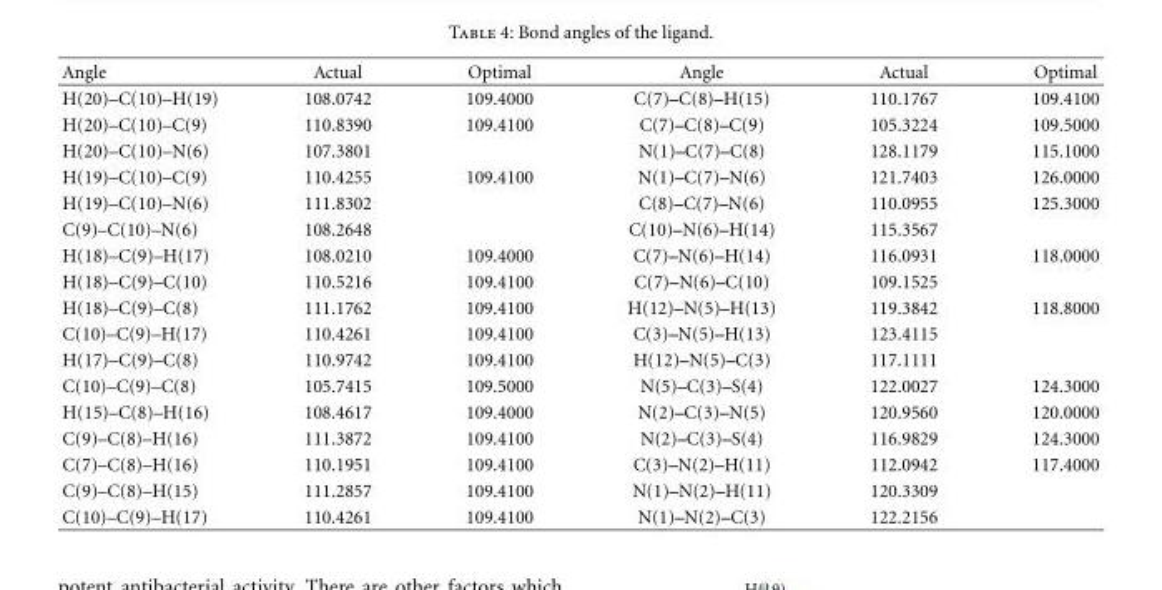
<table><thead><tr><td>Angle</td><td>Actual</td><td>Optimal</td><td>Angle</td><td>Actual</td><td>Optimal</td></tr></thead><tbody><tr><td>H(20)–C(10)–H(19)</td><td>108.0742</td><td>109.4000</td><td>C(7)–C(8)–H(15)</td><td>110.1767</td><td>109.4100</td></tr><tr><td>H(20)–C(10)–C(9)</td><td>110.8390</td><td>109.4100</td><td>C(7)–C(8)–C(9)</td><td>105.3224</td><td>109.5000</td></tr><tr><td>H(20)–C(10)–N(6)</td><td>107.3801</td><td></td><td>N(1)–C(7)–C(8)</td><td>128.1179</td><td>115.1000</td></tr><tr><td>H(19)–C(10)–C(9)</td><td>110.4255</td><td>109.4100</td><td>N(1)–C(7)–N(6)</td><td>121.7403</td><td>126.0000</td></tr><tr><td>H(19)–C(10)–N(6)</td><td>111.8302</td><td></td><td>C(8)–C(7)–N(6)</td><td>110.0955</td><td>125.3000</td></tr><tr><td>C(9)–C(10)–N(6)</td><td>108.2648</td><td></td><td>C(10)–N(6)–H(14)</td><td>115.3567</td><td></td></tr><tr><td>H(18)–C(9)–H(17)</td><td>108.0210</td><td>109.4000</td><td>C(7)–N(6)–H(14)</td><td>116.0931</td><td>118.0000</td></tr><tr><td>H(18)–C(9)–C(10)</td><td>110.5216</td><td>109.4100</td><td>C(7)–N(6)–C(10)</td><td>109.1525</td><td></td></tr><tr><td>H(18)–C(9)–C(8)</td><td>111.1762</td><td>109.4100</td><td>H(12)–N(5)–H(13)</td><td>119.3842</td><td>118.8000</td></tr><tr><td>C(10)–C(9)–H(17)</td><td>110.4261</td><td>109.4100</td><td>C(3)–N(5)–H(13)</td><td>123.4115</td><td></td></tr><tr><td>H(17)–C(9)–C(8)</td><td>110.9742</td><td>109.4100</td><td>H(12)–N(5)–C(3)</td><td>117.1111</td><td></td></tr><tr><td>C(10)–C(9)–C(8)</td><td>105.7415</td><td>109.5000</td><td>N(5)–C(3)–S(4)</td><td>122.0027</td><td>124.3000</td></tr><tr><td>H(15)–C(8)–H(16)</td><td>108.4617</td><td>109.4000</td><td>N(2)–C(3)–N(5)</td><td>120.9560</td><td>120.0000</td></tr><tr><td>C(9)–C(8)–H(16)</td><td>111.3872</td><td>109.4100</td><td>N(2)–C(3)–S(4)</td><td>116.9829</td><td>124.3000</td></tr><tr><td>C(7)–C(8)–H(16)</td><td>110.1951</td><td>109.4100</td><td>C(3)–N(2)–H(11)</td><td>112.0942</td><td>117.4000</td></tr><tr><td>C(9)–C(8)–H(15)</td><td>111.2857</td><td>109.4100</td><td>N(1)–N(2)–H(11)</td><td>120.3309</td><td></td></tr><tr><td>C(10)–C(9)–H(17)</td><td>110.4261</td><td>109.4100</td><td>N(1)–N(2)–C(3)</td><td>122.2156</td><td></td></tr></tbody></table>